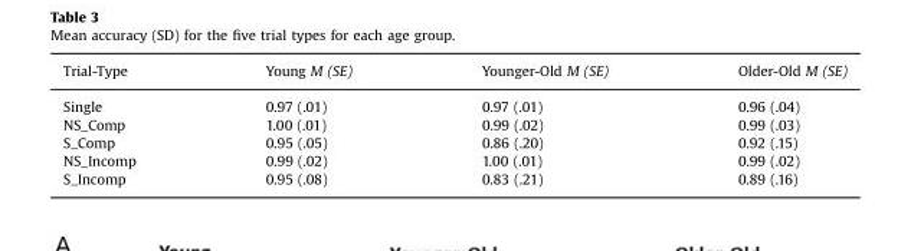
<table><thead><tr><td>Trial-Type</td><td>Young M (SE)</td><td>Younger-Old M (SE)</td><td>Older-Old M (SE)</td></tr></thead><tbody><tr><td>Single</td><td>0.97 (.01)</td><td>0.97 (.01)</td><td>0.96 (.04)</td></tr><tr><td>NS_Comp</td><td>1.00 (.01)</td><td>0.99 (.02)</td><td>0.99 (.03)</td></tr><tr><td>S_Comp</td><td>0.95 (.05)</td><td>0.86 (.20)</td><td>0.92 (.15)</td></tr><tr><td>NS_Incomp</td><td>0.99 (.02)</td><td>1.00 (.01)</td><td>0.99 (.02)</td></tr><tr><td>S_Incomp</td><td>0.95 (.08)</td><td>0.83 (.21)</td><td>0.89 (.16)</td></tr></tbody></table>